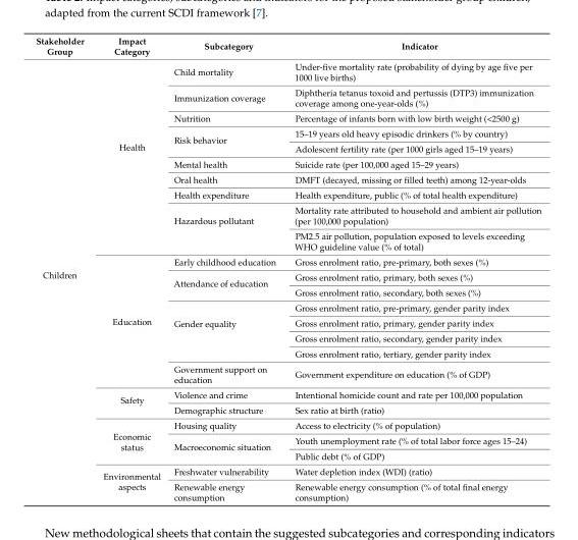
<table><thead><tr><td>Stakeholder Group</td><td>Impact Category</td><td>Subcategory</td><td>Indicator</td></tr></thead><tbody><tr><td rowspan="25">Children</td><td rowspan="10">Health</td><td>Child mortality</td><td>Under-five mortality rate (probability of dying by age five per 1000 live births)</td></tr><tr><td>Immunization coverage</td><td>Diphtheria tetanus toxoid and pertussis (DTP3) immunization coverage among one-year-olds (%)</td></tr><tr><td>Nutrition</td><td>Percentage of infants born with low birth weight (&lt;2500 g)</td></tr><tr><td rowspan="2">Risk behavior</td><td>15–19 years old heavy episodic drinkers (% by country)</td></tr><tr><td>Adolescent fertility rate (per 1000 girls aged 15–19 years)</td></tr><tr><td>Mental health</td><td>Suicide rate (per 100,000 aged 15–29 years)</td></tr><tr><td>Oral health</td><td>DMFT (decayed, missing or filled teeth) among 12-year-olds</td></tr><tr><td>Health expenditure</td><td>Health expenditure, public (% of total health expenditure)</td></tr><tr><td rowspan="2">Hazardous pollutant</td><td>Mortality rate attributed to household and ambient air pollution (per 100,000 population)</td></tr><tr><td>PM2.5 air pollution, population exposed to levels exceeding WHO guideline value (% of total)</td></tr><tr><td rowspan="8">Education</td><td>Early childhood education</td><td>Gross enrolment ratio, pre-primary, both sexes (%)</td></tr><tr><td rowspan="2">Attendance of education</td><td>Gross enrolment ratio, primary, both sexes (%)</td></tr><tr><td>Gross enrolment ratio, secondary, both sexes (%)</td></tr><tr><td rowspan="4">Gender equality</td><td>Gross enrolment ratio, pre-primary, gender parity index</td></tr><tr><td>Gross enrolment ratio, primary, gender parity index</td></tr><tr><td>Gross enrolment ratio, secondary, gender parity index</td></tr><tr><td>Gross enrolment ratio, tertiary, gender parity index</td></tr><tr><td>Government support on education</td><td>Government expenditure on education (% of GDP)</td></tr><tr><td rowspan="2">Safety</td><td>Violence and crime</td><td>Intentional homicide count and rate per 100,000 population</td></tr><tr><td>Demographic structure</td><td>Sex ratio at birth (ratio)</td></tr><tr><td rowspan="3">Economic status</td><td>Housing quality</td><td>Access to electricity (% of population)</td></tr><tr><td rowspan="2">Macroeconomic situation</td><td>Youth unemployment rate (% of total labor force ages 15–24)</td></tr><tr><td>Public debt (% of GDP)</td></tr><tr><td rowspan="2">Environmental aspects</td><td>Freshwater vulnerability</td><td>Water depletion index (WDI) (ratio)</td></tr><tr><td>Renewable energy consumption</td><td>Renewable energy consumption (% of total final energy consumption)</td></tr></tbody></table>